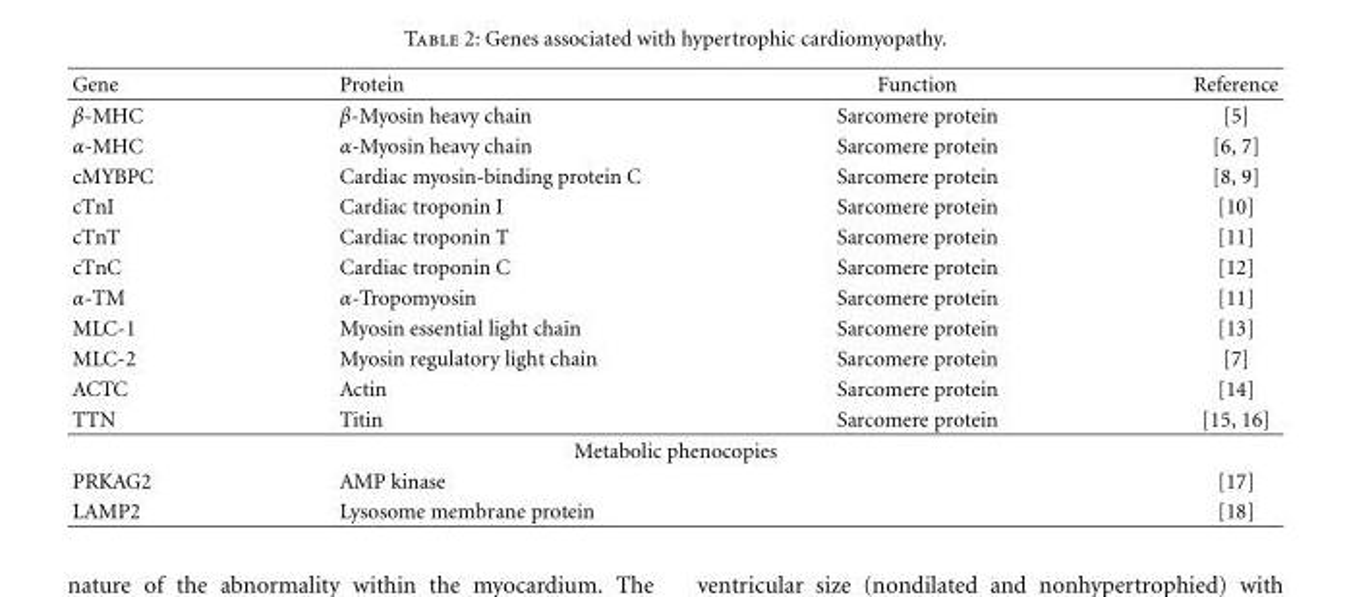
<table><thead><tr><td>Gene</td><td>Protein</td><td>Function</td><td>Reference</td></tr></thead><tbody><tr><td>β-MHC</td><td>β-Myosin heavy chain</td><td>Sarcomere protein</td><td>[5]</td></tr><tr><td>α-MHC</td><td>α-Myosin heavy chain</td><td>Sarcomere protein</td><td>[6, 7]</td></tr><tr><td>cMYBPC</td><td>Cardiac myosin-binding protein C</td><td>Sarcomere protein</td><td>[8, 9]</td></tr><tr><td>cTnI</td><td>Cardiac troponin I</td><td>Sarcomere protein</td><td>[10]</td></tr><tr><td>cTnT</td><td>Cardiac troponin T</td><td>Sarcomere protein</td><td>[11]</td></tr><tr><td>cTnC</td><td>Cardiac troponin C</td><td>Sarcomere protein</td><td>[12]</td></tr><tr><td>α-TM</td><td>α-Tropomyosin</td><td>Sarcomere protein</td><td>[11]</td></tr><tr><td>MLC-1</td><td>Myosin essential light chain</td><td>Sarcomere protein</td><td>[13]</td></tr><tr><td>MLC-2</td><td>Myosin regulatory light chain</td><td>Sarcomere protein</td><td>[7]</td></tr><tr><td>ACTC</td><td>Actin</td><td>Sarcomere protein</td><td>[14]</td></tr><tr><td>TTN</td><td>Titin</td><td>Sarcomere protein</td><td>[15, 16]</td></tr><tr><td colspan="4">Metabolic phenocopies</td></tr><tr><td>PRKAG2</td><td>AMP kinase</td><td></td><td>[17]</td></tr><tr><td>LAMP2</td><td>Lysosome membrane protein</td><td></td><td>[18]</td></tr></tbody></table>